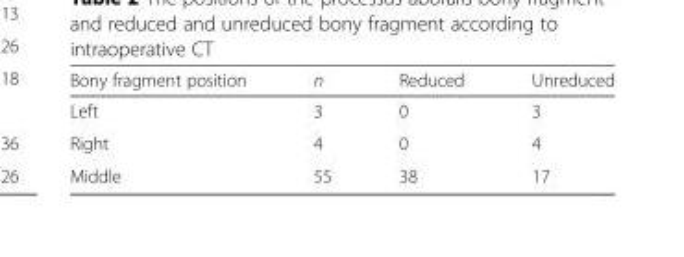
<table><thead><tr><td>Bony fragment position</td><td>n</td><td>Reduced</td><td>Unreduced</td></tr></thead><tbody><tr><td>Left</td><td>3</td><td>0</td><td>3</td></tr><tr><td>Right</td><td>4</td><td>0</td><td>4</td></tr><tr><td>Middle</td><td>55</td><td>38</td><td>17</td></tr></tbody></table>